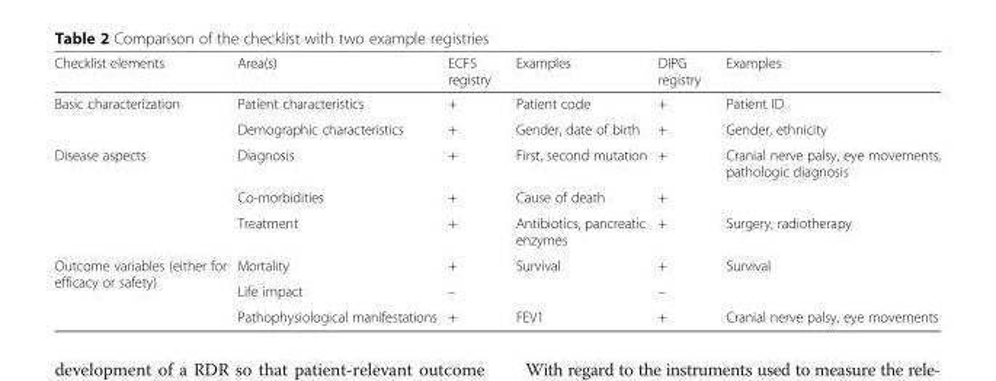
<table><thead><tr><td>Checklist elements</td><td>Area(s)</td><td>ECFS registry</td><td>Examples</td><td>DIPG registry</td><td>Examples</td></tr></thead><tbody><tr><td rowspan="2">Basic characterization</td><td>Patient characteristics</td><td>+</td><td>Patient code</td><td>+</td><td>Patient ID</td></tr><tr><td>Demographic characteristics</td><td>+</td><td>Gender, date of birth</td><td>+</td><td>Gender, ethnicity</td></tr><tr><td rowspan="3">Disease aspects</td><td>Diagnosis</td><td>+</td><td>First, second mutation</td><td>+</td><td>Cranial nerve palsy, eye movements, pathologic diagnosis</td></tr><tr><td>Co-morbidities</td><td>+</td><td>Cause of death</td><td>+</td><td></td></tr><tr><td>Treatment</td><td>+</td><td>Antibiotics, pancreatic enzymes</td><td>+</td><td>Surgery, radiotherapy</td></tr><tr><td rowspan="3">Outcome variables (either for efficacy or safety)</td><td>Mortality</td><td>+</td><td>Survival</td><td>+</td><td>Survival</td></tr><tr><td>Life impact</td><td>–</td><td></td><td>–</td><td></td></tr><tr><td>Pathophysiological manifestations</td><td>+</td><td>FEV1</td><td>+</td><td>Cranial nerve palsy, eye movements</td></tr></tbody></table>